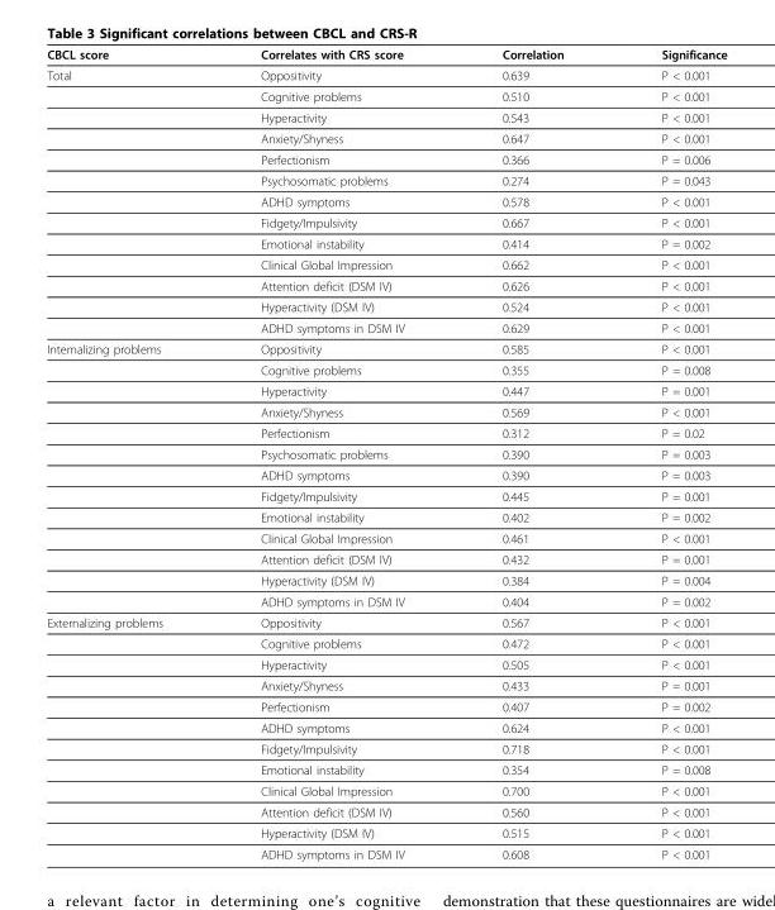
<table><thead><tr><td>CBCL score</td><td>Correlates with CRS score</td><td>Correlation</td><td>Significance</td></tr></thead><tbody><tr><td rowspan="13">Total</td><td>Oppositivity</td><td>0.639</td><td>P &lt; 0.001</td></tr><tr><td>Cognitive problems</td><td>0.510</td><td>P &lt; 0.001</td></tr><tr><td>Hyperactivity</td><td>0.543</td><td>P &lt; 0.001</td></tr><tr><td>Anxiety/Shyness</td><td>0.647</td><td>P &lt; 0.001</td></tr><tr><td>Perfectionism</td><td>0.366</td><td>P = 0.006</td></tr><tr><td>Psychosomatic problems</td><td>0.274</td><td>P = 0.043</td></tr><tr><td>ADHD symptoms</td><td>0.578</td><td>P &lt; 0.001</td></tr><tr><td>Fidgety/Impulsivity</td><td>0.667</td><td>P &lt; 0.001</td></tr><tr><td>Emotional instability</td><td>0.414</td><td>P = 0.002</td></tr><tr><td>Clinical Global Impression</td><td>0.662</td><td>P &lt; 0.001</td></tr><tr><td>Attention deficit (DSM IV)</td><td>0.626</td><td>P &lt; 0.001</td></tr><tr><td>Hyperactivity (DSM IV)</td><td>0.524</td><td>P &lt; 0.001</td></tr><tr><td>ADHD symptoms in DSM IV</td><td>0.629</td><td>P &lt; 0.001</td></tr><tr><td rowspan="13">Internalizing problems</td><td>Oppositivity</td><td>0.585</td><td>P &lt; 0.001</td></tr><tr><td>Cognitive problems</td><td>0.355</td><td>P = 0.008</td></tr><tr><td>Hyperactivity</td><td>0.447</td><td>P = 0.001</td></tr><tr><td>Anxiety/Shyness</td><td>0.569</td><td>P &lt; 0.001</td></tr><tr><td>Perfectionism</td><td>0.312</td><td>P = 0.02</td></tr><tr><td>Psychosomatic problems</td><td>0.390</td><td>P = 0.003</td></tr><tr><td>ADHD symptoms</td><td>0.390</td><td>P = 0.003</td></tr><tr><td>Fidgety/Impulsivity</td><td>0.445</td><td>P = 0.001</td></tr><tr><td>Emotional instability</td><td>0.402</td><td>P = 0.002</td></tr><tr><td>Clinical Global Impression</td><td>0.461</td><td>P &lt; 0.001</td></tr><tr><td>Attention deficit (DSM IV)</td><td>0.432</td><td>P = 0.001</td></tr><tr><td>Hyperactivity (DSM IV)</td><td>0.384</td><td>P = 0.004</td></tr><tr><td>ADHD symptoms in DSM IV</td><td>0.404</td><td>P = 0.002</td></tr><tr><td rowspan="12">Externalizing problems</td><td>Oppositivity</td><td>0.567</td><td>P &lt; 0.001</td></tr><tr><td>Cognitive problems</td><td>0.472</td><td>P &lt; 0.001</td></tr><tr><td>Hyperactivity</td><td>0.505</td><td>P &lt; 0.001</td></tr><tr><td>Anxiety/Shyness</td><td>0.433</td><td>P = 0.001</td></tr><tr><td>Perfectionism</td><td>0.407</td><td>P = 0.002</td></tr><tr><td>ADHD symptoms</td><td>0.624</td><td>P &lt; 0.001</td></tr><tr><td>Fidgety/Impulsivity</td><td>0.718</td><td>P &lt; 0.001</td></tr><tr><td>Emotional instability</td><td>0.354</td><td>P = 0.008</td></tr><tr><td>Clinical Global Impression</td><td>0.700</td><td>P &lt; 0.001</td></tr><tr><td>Attention deficit (DSM IV)</td><td>0.560</td><td>P &lt; 0.001</td></tr><tr><td>Hyperactivity (DSM IV)</td><td>0.515</td><td>P &lt; 0.001</td></tr><tr><td>ADHD symptoms in DSM IV</td><td>0.608</td><td>P &lt; 0.001</td></tr></tbody></table>